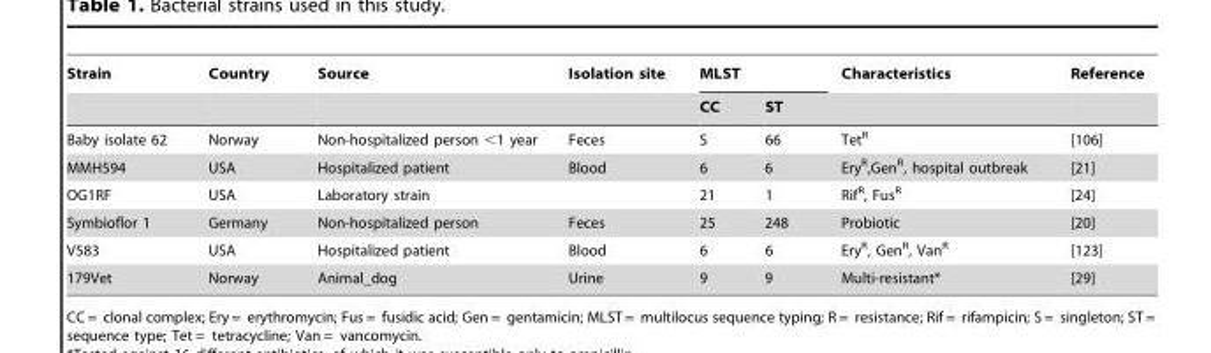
<table><thead><tr><td rowspan="2">Strain</td><td rowspan="2">Country</td><td rowspan="2">Source</td><td rowspan="2">Isolation site</td><td colspan="2">MLST</td><td rowspan="2">Characteristics</td><td rowspan="2">Reference</td></tr><tr><td>CC</td><td>ST</td></tr></thead><tbody><tr><td>Baby isolate 62</td><td>Norway</td><td>Non-hospitalized person &lt;1 year</td><td>Feces</td><td>S</td><td>66</td><td>Tet<sup>R</sup></td><td>[106]</td></tr><tr><td>MMH594</td><td>USA</td><td>Hospitalized patient</td><td>Blood</td><td>6</td><td>6</td><td>Ery<sup>R</sup>,Gen<sup>R</sup>, hospital outbreak</td><td>[21]</td></tr><tr><td>OG1RF</td><td>USA</td><td>Laboratory strain</td><td></td><td>21</td><td>1</td><td>Rif<sup>R</sup>, Fus<sup>R</sup></td><td>[24]</td></tr><tr><td>Symbioflor 1</td><td>Germany</td><td>Non-hospitalized person</td><td>Feces</td><td>25</td><td>248</td><td>Probiotic</td><td>[20]</td></tr><tr><td>V583</td><td>USA</td><td>Hospitalized patient</td><td>Blood</td><td>6</td><td>6</td><td>Ery<sup>R</sup>, Gen<sup>R</sup>, Van<sup>R</sup></td><td>[123]</td></tr><tr><td>179Vet</td><td>Norway</td><td>Animal_dog</td><td>Urine</td><td>9</td><td>9</td><td>Multi-resistant*</td><td>[29]</td></tr></tbody></table>